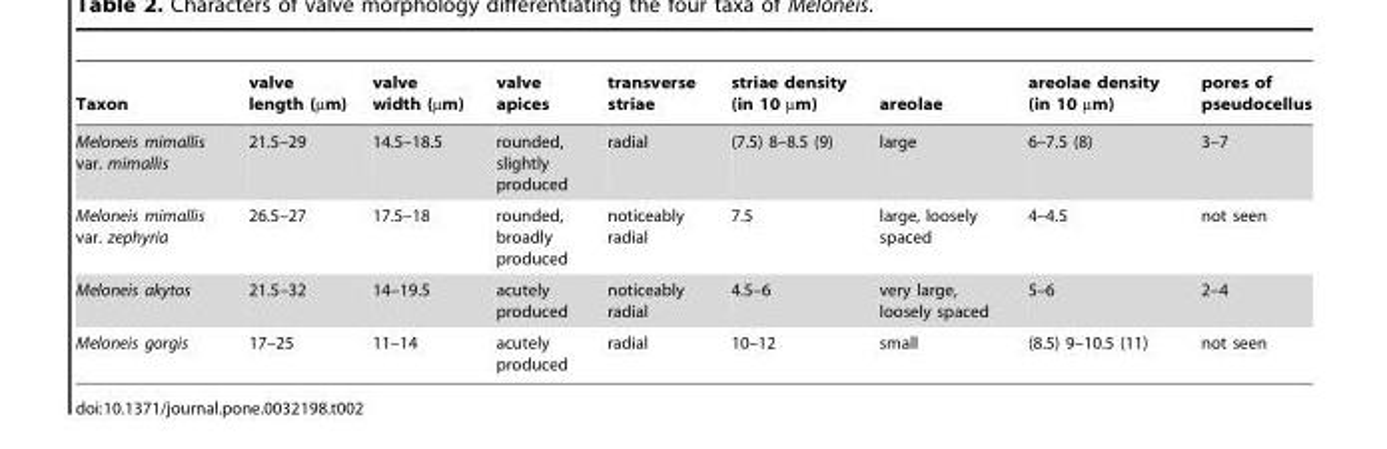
<table><thead><tr><td>Taxon</td><td>valve length (µm)</td><td>valve width (µm)</td><td>valve apices</td><td>transverse striae</td><td>striae density (in 10 µm)</td><td>areolae</td><td>areolae density (in 10 µm)</td><td>pores of pseudocellus</td></tr></thead><tbody><tr><td>Meloneis mimallis var. mimallis</td><td>21.5–29</td><td>14.5–18.5</td><td>rounded, slightly produced</td><td>radial</td><td>(7.5) 8–8.5 (9)</td><td>large</td><td>6–7.5 (8)</td><td>3–7</td></tr><tr><td>Meloneis mimallis var. zephyria</td><td>26.5–27</td><td>17.5–18</td><td>rounded, broadly produced</td><td>noticeably radial</td><td>7.5</td><td>large, loosely spaced</td><td>4–4.5</td><td>not seen</td></tr><tr><td>Meloneis akytos</td><td>21.5–32</td><td>14–19.5</td><td>acutely produced</td><td>noticeably radial</td><td>4.5–6</td><td>very large, loosely spaced</td><td>5–6</td><td>2–4</td></tr><tr><td>Meloneis gorgis</td><td>17–25</td><td>11–14</td><td>acutely produced</td><td>radial</td><td>10–12</td><td>small</td><td>(8.5) 9–10.5 (11)</td><td>not seen</td></tr></tbody></table>